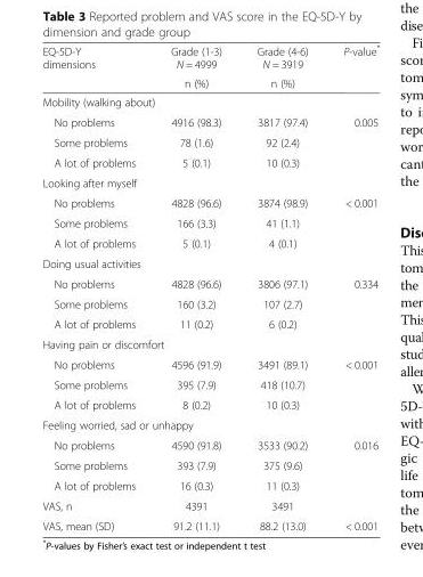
<table><thead><tr><td rowspan="2">EQ-5D-Y dimensions</td><td rowspan="2">Grade (1-3) N = 4999 n (%)</td><td rowspan="2">Grade (4-6) N = 3919 n (%)</td><td rowspan="2">P-value*</td></tr><tr></tr></thead><tbody><tr><td colspan="4">Mobility (walking about)</td></tr><tr><td>No problems</td><td>4916 (98.3)</td><td>3817 (97.4)</td><td>0.005</td></tr><tr><td>Some problems</td><td>78 (1.6)</td><td>92 (2.4)</td><td></td></tr><tr><td>A lot of problems</td><td>5 (0.1)</td><td>10 (0.3)</td><td></td></tr><tr><td colspan="4">Looking after myself</td></tr><tr><td>No problems</td><td>4828 (96.6)</td><td>3874 (98.9)</td><td>&lt; 0.001</td></tr><tr><td>Some problems</td><td>166 (3.3)</td><td>41 (1.1)</td><td></td></tr><tr><td>A lot of problems</td><td>5 (0.1)</td><td>4 (0.1)</td><td></td></tr><tr><td colspan="4">Doing usual activities</td></tr><tr><td>No problems</td><td>4828 (96.6)</td><td>3806 (97.1)</td><td>0.334</td></tr><tr><td>Some problems</td><td>160 (3.2)</td><td>107 (2.7)</td><td></td></tr><tr><td>A lot of problems</td><td>11 (0.2)</td><td>6 (0.2)</td><td></td></tr><tr><td colspan="4">Having pain or discomfort</td></tr><tr><td>No problems</td><td>4596 (91.9)</td><td>3491 (89.1)</td><td>&lt; 0.001</td></tr><tr><td>Some problems</td><td>395 (7.9)</td><td>418 (10.7)</td><td></td></tr><tr><td>A lot of problems</td><td>8 (0.2)</td><td>10 (0.3)</td><td></td></tr><tr><td colspan="4">Feeling worried, sad or unhappy</td></tr><tr><td>No problems</td><td>4590 (91.8)</td><td>3533 (90.2)</td><td>0.016</td></tr><tr><td>Some problems</td><td>393 (7.9)</td><td>375 (9.6)</td><td></td></tr><tr><td>A lot of problems</td><td>16 (0.3)</td><td>11 (0.3)</td><td></td></tr><tr><td>VAS, n</td><td>4391</td><td>3491</td><td></td></tr><tr><td>VAS, mean (SD)</td><td>91.2 (11.1)</td><td>88.2 (13.0)</td><td>&lt; 0.001</td></tr></tbody></table>